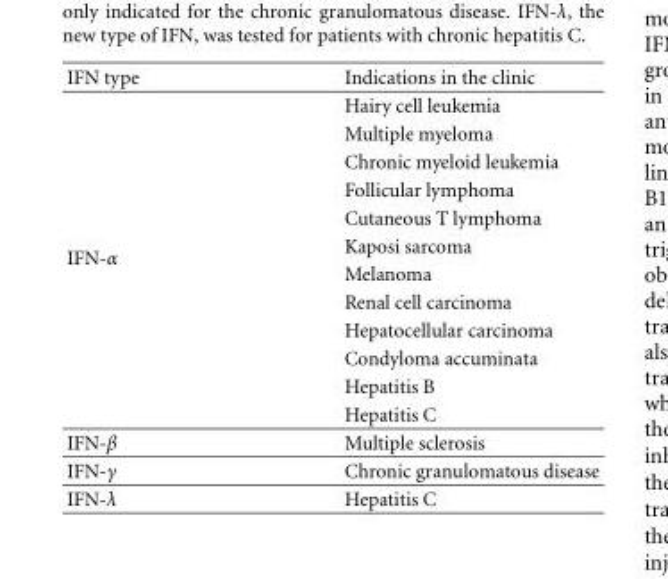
<table><thead><tr><td>IFN type</td><td>Indications in the clinic</td></tr></thead><tbody><tr><td rowspan="12">IFN-α</td><td>Hairy cell leukemia</td></tr><tr><td>Multiple myeloma</td></tr><tr><td>Chronic myeloid leukemia</td></tr><tr><td>Follicular lymphoma</td></tr><tr><td>Cutaneous T lymphoma</td></tr><tr><td>Kaposi sarcoma</td></tr><tr><td>Melanoma</td></tr><tr><td>Renal cell carcinoma</td></tr><tr><td>Hepatocellular carcinoma</td></tr><tr><td>Condyloma accuminata</td></tr><tr><td>Hepatitis B</td></tr><tr><td>Hepatitis C</td></tr><tr><td>IFN-β</td><td>Multiple sclerosis</td></tr><tr><td>IFN-γ</td><td>Chronic granulomatous disease</td></tr><tr><td>IFN-λ</td><td>Hepatitis C</td></tr></tbody></table>